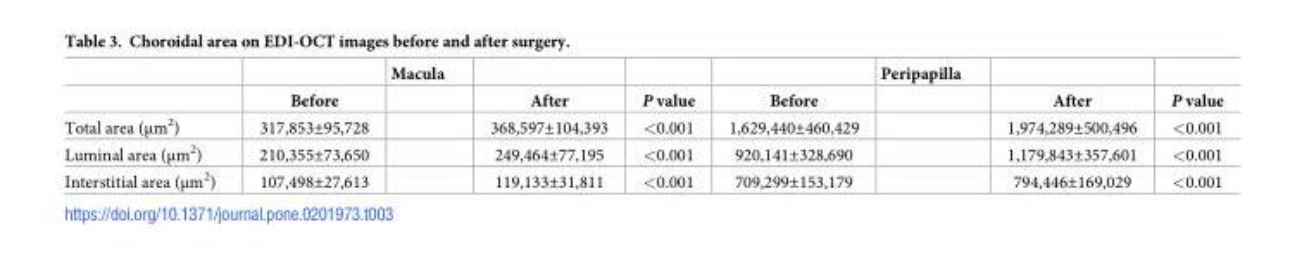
<table><thead><tr><td rowspan="2"></td><td rowspan="2">Before</td><td rowspan="2">Macula</td><td rowspan="2">After</td><td rowspan="2">P value</td><td rowspan="2">Before</td><td rowspan="2">Peripapilla</td><td rowspan="2">After</td><td rowspan="2">P value</td></tr><tr></tr></thead><tbody><tr><td>Total area (μm<sup>2</sup>)</td><td>317,853±95,728</td><td></td><td>368,597±104,393</td><td>&lt;0.001</td><td>1,629,440±460,429</td><td></td><td>1,974,289±500,496</td><td>&lt;0.001</td></tr><tr><td>Luminal area (μm<sup>2</sup>)</td><td>210,355±73,650</td><td></td><td>249,464±77,195</td><td>&lt;0.001</td><td>920,141±328,690</td><td></td><td>1,179,843±357,601</td><td>&lt;0.001</td></tr><tr><td>Interstitial area (μm<sup>2</sup>)</td><td>107,498±27,613</td><td></td><td>119,133±31,811</td><td>&lt;0.001</td><td>709,299±153,179</td><td></td><td>794,446±169,029</td><td>&lt;0.001</td></tr></tbody></table>